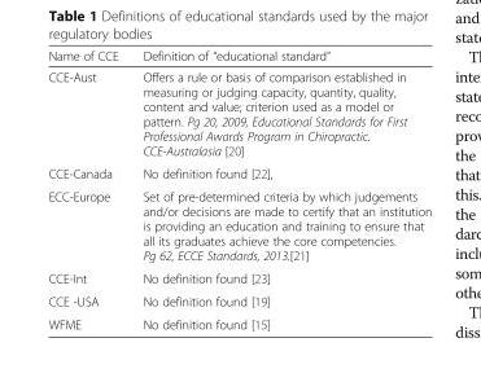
<table><thead><tr><td>Name of CCE</td><td>Definition of “educational standard”</td></tr></thead><tbody><tr><td>CCE-Aust</td><td>Offers a rule or basis of comparison established in measuring or judging capacity, quantity, quality, content and value; criterion used as a model or pattern. Pg 20, 2009, Educational Standards for First Professional Awards Program in Chiropractic. CCE-Australasia [20]</td></tr><tr><td>CCE-Canada</td><td>No definition found [22],</td></tr><tr><td>ECC-Europe</td><td>Set of pre-determined criteria by which judgements and/or decisions are made to certify that an institution is providing an education and training to ensure that all its graduates achieve the core competencies. Pg 62, ECCE Standards, 2013.[21]</td></tr><tr><td>CCE-Int</td><td>No definition found [23]</td></tr><tr><td>CCE -USA</td><td>No definition found [19]</td></tr><tr><td>WFME</td><td>No definition found [15]</td></tr></tbody></table>